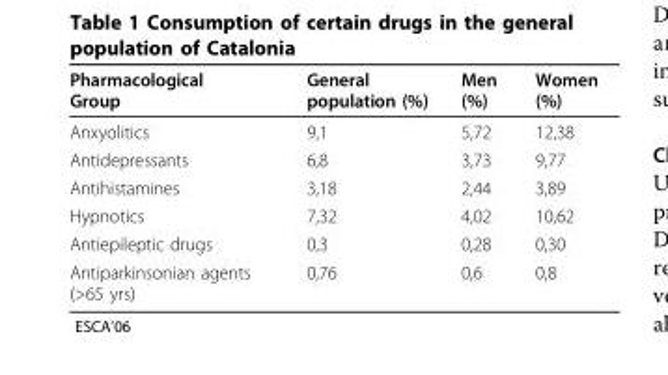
<table><thead><tr><td>Pharmacological Group</td><td>General population (%)</td><td>Men (%)</td><td>Women (%)</td></tr></thead><tbody><tr><td>Anxyolitics</td><td>9,1</td><td>5,72</td><td>12,38</td></tr><tr><td>Antidepressants</td><td>6,8</td><td>3,73</td><td>9,77</td></tr><tr><td>Antihistamines</td><td>3,18</td><td>2,44</td><td>3,89</td></tr><tr><td>Hypnotics</td><td>7,32</td><td>4,02</td><td>10,62</td></tr><tr><td>Antiepileptic drugs</td><td>0,3</td><td>0,28</td><td>0,30</td></tr><tr><td>Antiparkinsonian agents (&gt;65 yrs)</td><td>0,76</td><td>0,6</td><td>0,8</td></tr></tbody></table>